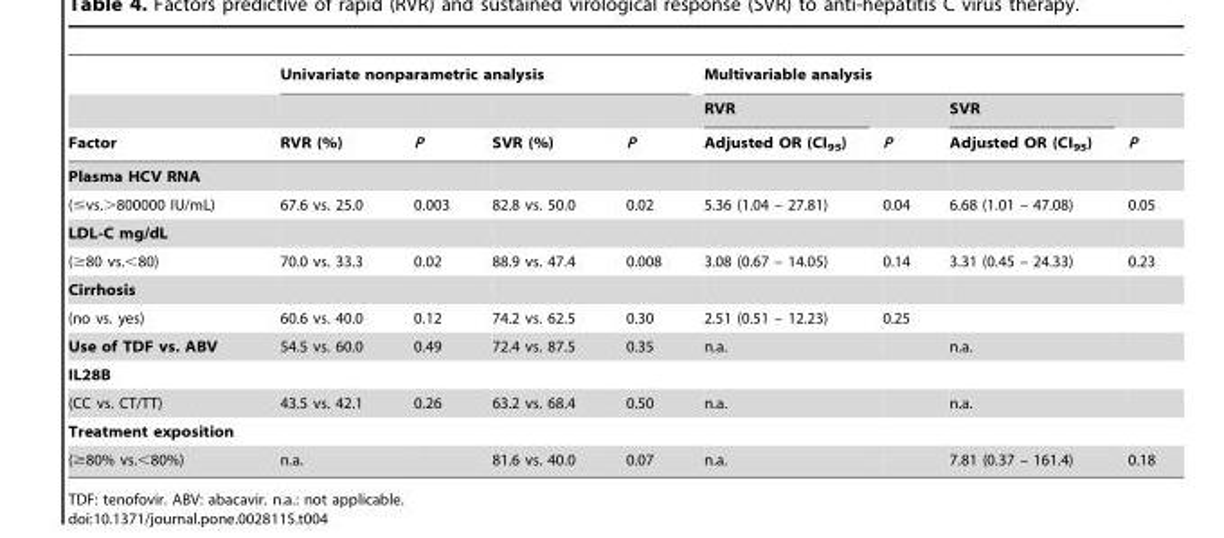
<table><thead><tr><td rowspan="3">Factor</td><td colspan="4">Univariate nonparametric analysis</td><td colspan="4">Multivariable analysis</td></tr><tr><td rowspan="2">RVR (%)</td><td rowspan="2">P</td><td rowspan="2">SVR (%)</td><td rowspan="2">P</td><td rowspan="2">RVR Adjusted OR (CI<sub>95</sub>)</td><td rowspan="2">P</td><td rowspan="2">SVR Adjusted OR (CI<sub>95</sub>)</td><td rowspan="2">P</td></tr><tr></tr></thead><tbody><tr><td colspan="9">Plasma HCV RNA</td></tr><tr><td>(≤vs.&gt;800000 IU/mL)</td><td>67.6 vs. 25.0</td><td>0.003</td><td>82.8 vs. 50.0</td><td>0.02</td><td>5.36 (1.04 – 27.81)</td><td>0.04</td><td>6.68 (1.01 – 47.08)</td><td>0.05</td></tr><tr><td colspan="9">LDL-C mg/dL</td></tr><tr><td>(≥80 vs.&lt;80)</td><td>70.0 vs. 33.3</td><td>0.02</td><td>88.9 vs. 47.4</td><td>0.008</td><td>3.08 (0.67 – 14.05)</td><td>0.14</td><td>3.31 (0.45 – 24.33)</td><td>0.23</td></tr><tr><td colspan="9">Cirrhosis</td></tr><tr><td>(no vs. yes)</td><td>60.6 vs. 40.0</td><td>0.12</td><td>74.2 vs. 62.5</td><td>0.30</td><td>2.51 (0.51 – 12.23)</td><td>0.25</td><td></td><td></td></tr><tr><td>Use of TDF vs. ABV</td><td>54.5 vs. 60.0</td><td>0.49</td><td>72.4 vs. 87.5</td><td>0.35</td><td>n.a.</td><td></td><td>n.a.</td><td></td></tr><tr><td colspan="9">IL28B</td></tr><tr><td>(CC vs. CT/TT)</td><td>43.5 vs. 42.1</td><td>0.26</td><td>63.2 vs. 68.4</td><td>0.50</td><td>n.a.</td><td></td><td>n.a.</td><td></td></tr><tr><td colspan="9">Treatment exposition</td></tr><tr><td>(≥80% vs.&lt;80%)</td><td>n.a.</td><td></td><td>81.6 vs. 40.0</td><td>0.07</td><td>n.a.</td><td></td><td>7.81 (0.37 – 161.4)</td><td>0.18</td></tr></tbody></table>